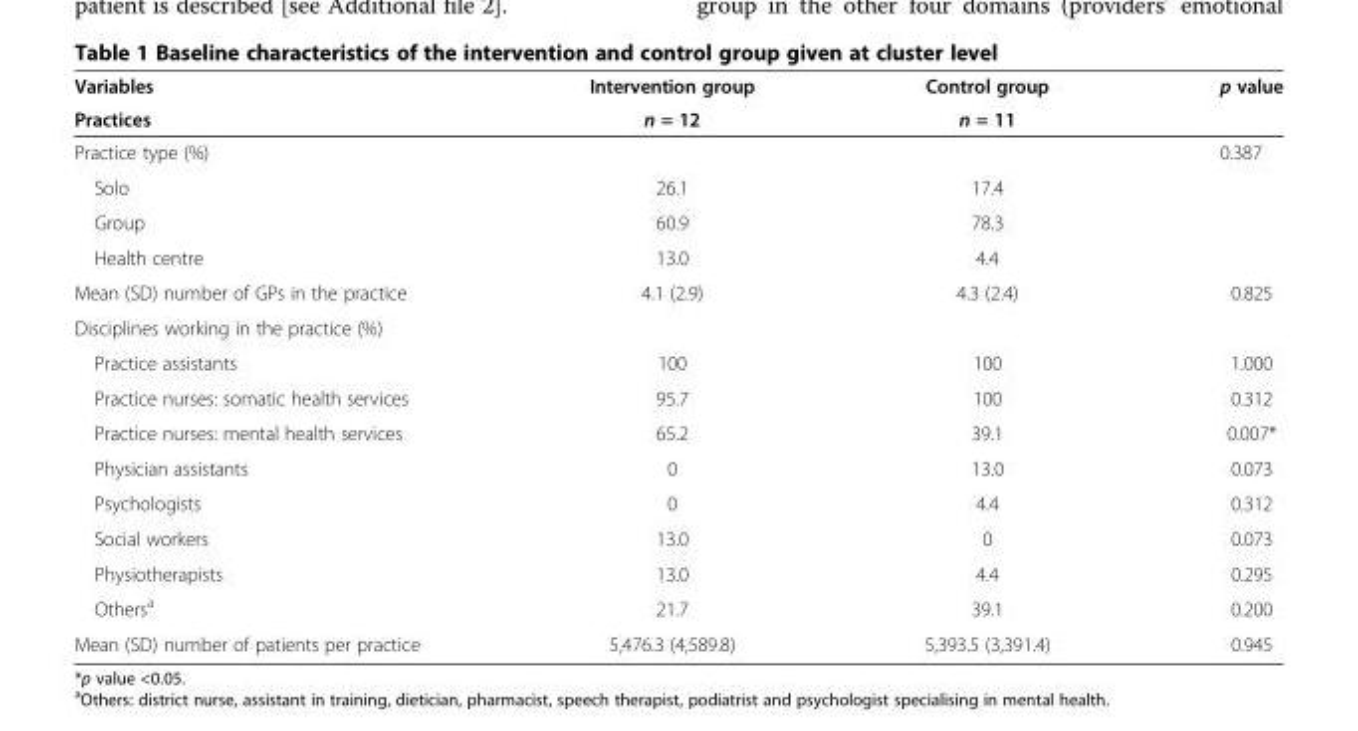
<table><thead><tr><td rowspan="2">Variables Practices</td><td rowspan="2">Intervention group n = 12</td><td rowspan="2">Control group n = 11</td><td rowspan="2">p value</td></tr><tr></tr></thead><tbody><tr><td colspan="3">Practice type (%)</td><td>0.387</td></tr><tr><td>Solo</td><td>26.1</td><td>17.4</td><td></td></tr><tr><td>Group</td><td>60.9</td><td>78.3</td><td></td></tr><tr><td>Health centre</td><td>13.0</td><td>4.4</td><td></td></tr><tr><td>Mean (SD) number of GPs in the practice</td><td>4.1 (2.9)</td><td>4.3 (2.4)</td><td>0.825</td></tr><tr><td colspan="4">Disciplines working in the practice (%)</td></tr><tr><td>Practice assistants</td><td>100</td><td>100</td><td>1.000</td></tr><tr><td>Practice nurses: somatic health services</td><td>95.7</td><td>100</td><td>0.312</td></tr><tr><td>Practice nurses: mental health services</td><td>65.2</td><td>39.1</td><td>0.007*</td></tr><tr><td>Physician assistants</td><td>0</td><td>13.0</td><td>0.073</td></tr><tr><td>Psychologists</td><td>0</td><td>4.4</td><td>0.312</td></tr><tr><td>Social workers</td><td>13.0</td><td>0</td><td>0.073</td></tr><tr><td>Physiotherapists</td><td>13.0</td><td>4.4</td><td>0.295</td></tr><tr><td>Others<sup>a</sup></td><td>21.7</td><td>39.1</td><td>0.200</td></tr><tr><td>Mean (SD) number of patients per practice</td><td>5,476.3 (4,589.8)</td><td>5,393.5 (3,391.4)</td><td>0.945</td></tr></tbody></table>